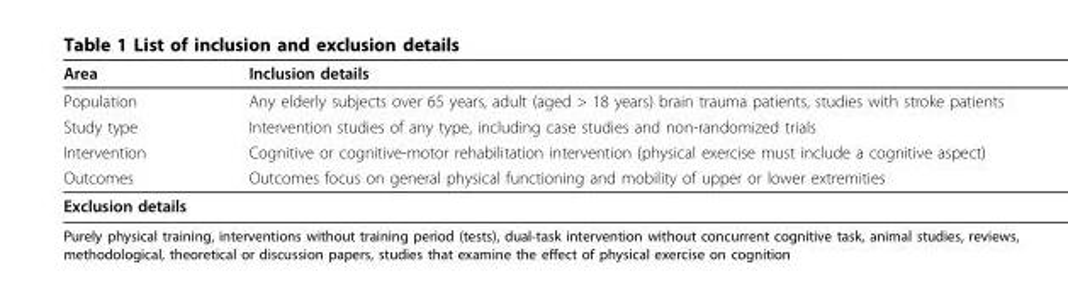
<table><thead><tr><td>Area</td><td>Inclusion details</td></tr></thead><tbody><tr><td>Population</td><td>Any elderly subjects over 65 years, adult (aged &gt; 18 years) brain trauma patients, studies with stroke patients</td></tr><tr><td>Study type</td><td>Intervention studies of any type, including case studies and non-randomized trials</td></tr><tr><td>Intervention</td><td>Cognitive or cognitive-motor rehabilitation intervention (physical exercise must include a cognitive aspect)</td></tr><tr><td>Outcomes</td><td>Outcomes focus on general physical functioning and mobility of upper or lower extremities</td></tr><tr><td colspan="2">Exclusion details</td></tr></tbody></table>